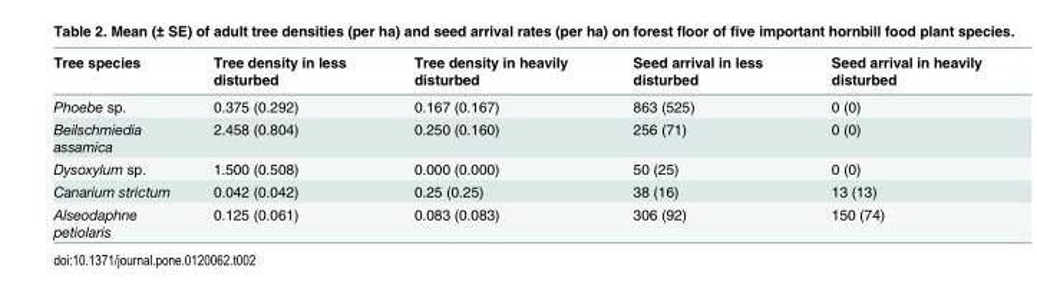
<table><thead><tr><td>Tree species</td><td>Tree density in less disturbed</td><td>Tree density in heavily disturbed</td><td>Seed arrival in less disturbed</td><td>Seed arrival in heavily disturbed</td></tr></thead><tbody><tr><td>Phoebe sp.</td><td>0.375 (0.292)</td><td>0.167 (0.167)</td><td>863 (525)</td><td>0 (0)</td></tr><tr><td>Beilschmiedia assamica</td><td>2.458 (0.804)</td><td>0.250 (0.160)</td><td>256 (71)</td><td>0 (0)</td></tr><tr><td>Dysoxylum sp.</td><td>1.500 (0.508)</td><td>0.000 (0.000)</td><td>50 (25)</td><td>0 (0)</td></tr><tr><td>Canarium strictum</td><td>0.042 (0.042)</td><td>0.25 (0.25)</td><td>38 (16)</td><td>13 (13)</td></tr><tr><td>Alseodaphne petiolaris</td><td>0.125 (0.061)</td><td>0.083 (0.083)</td><td>306 (92)</td><td>150 (74)</td></tr></tbody></table>